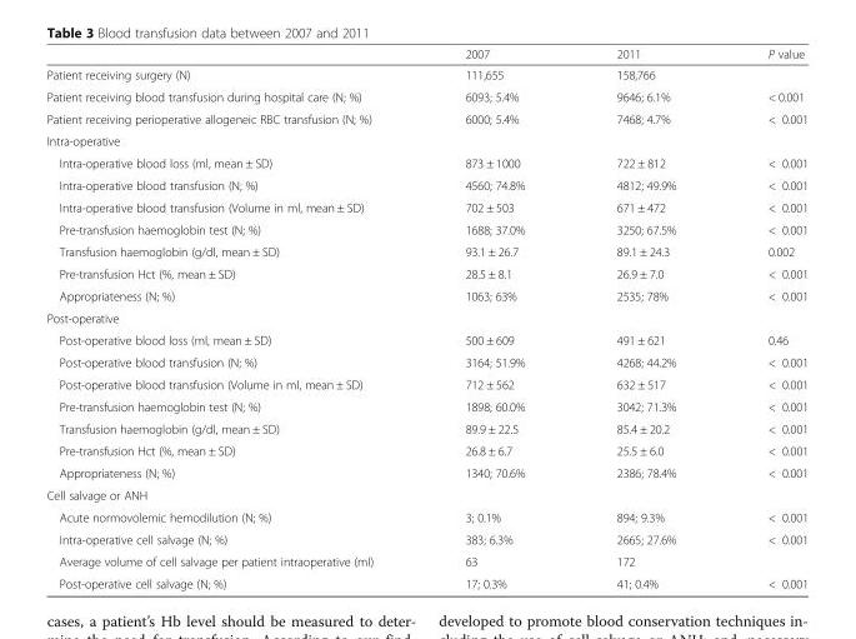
<table><thead><tr><td></td><td>2007</td><td>2011</td><td>P value</td></tr></thead><tbody><tr><td>Patient receiving surgery (N)</td><td>111,655</td><td>158,766</td><td></td></tr><tr><td>Patient receiving blood transfusion during hospital care (N; %)</td><td>6093; 5.4%</td><td>9646; 6.1%</td><td>&lt; 0.001</td></tr><tr><td>Patient receiving perioperative allogeneic RBC transfusion (N; %)</td><td>6000; 5.4%</td><td>7468; 4.7%</td><td>&lt; 0.001</td></tr><tr><td colspan="4">Intra-operative</td></tr><tr><td>Intra-operative blood loss (ml, mean ± SD)</td><td>873 ± 1000</td><td>722 ± 812</td><td>&lt; 0.001</td></tr><tr><td>Intra-operative blood transfusion (N; %)</td><td>4560; 74.8%</td><td>4812; 49.9%</td><td>&lt; 0.001</td></tr><tr><td>Intra-operative blood transfusion (Volume in ml, mean ± SD)</td><td>702 ± 503</td><td>671 ± 472</td><td>&lt; 0.001</td></tr><tr><td>Pre-transfusion haemoglobin test (N; %)</td><td>1688; 37.0%</td><td>3250; 67.5%</td><td>&lt; 0.001</td></tr><tr><td>Transfusion haemoglobin (g/dl, mean ± SD)</td><td>93.1 ± 26.7</td><td>89.1 ± 24.3</td><td>0.002</td></tr><tr><td>Pre-transfusion Hct (%, mean ± SD)</td><td>28.5 ± 8.1</td><td>26.9 ± 7.0</td><td>&lt; 0.001</td></tr><tr><td>Appropriateness (N; %)</td><td>1063; 63%</td><td>2535; 78%</td><td>&lt; 0.001</td></tr><tr><td colspan="4">Post-operative</td></tr><tr><td>Post-operative blood loss (ml, mean ± SD)</td><td>500 ± 609</td><td>491 ± 621</td><td>0.46</td></tr><tr><td>Post-operative blood transfusion (N; %)</td><td>3164; 51.9%</td><td>4268; 44.2%</td><td>&lt; 0.001</td></tr><tr><td>Post-operative blood transfusion (Volume in ml, mean ± SD)</td><td>712 ± 562</td><td>632 ± 517</td><td>&lt; 0.001</td></tr><tr><td>Pre-transfusion haemoglobin test (N; %)</td><td>1898; 60.0%</td><td>3042; 71.3%</td><td>&lt; 0.001</td></tr><tr><td>Transfusion haemoglobin (g/dl, mean ± SD)</td><td>89.9 ± 22.5</td><td>85.4 ± 20.2</td><td>&lt; 0.001</td></tr><tr><td>Pre-transfusion Hct (%, mean ± SD)</td><td>26.8 ± 6.7</td><td>25.5 ± 6.0</td><td>&lt; 0.001</td></tr><tr><td>Appropriateness (N; %)</td><td>1340; 70.6%</td><td>2386; 78.4%</td><td>&lt; 0.001</td></tr><tr><td colspan="4">Cell salvage or ANH</td></tr><tr><td>Acute normovolemic hemodilution (N; %)</td><td>3; 0.1%</td><td>894; 9.3%</td><td>&lt; 0.001</td></tr><tr><td>Intra-operative cell salvage (N; %)</td><td>383; 6.3%</td><td>2665; 27.6%</td><td>&lt; 0.001</td></tr><tr><td>Average volume of cell salvage per patient intraoperative (ml)</td><td>63</td><td>172</td><td></td></tr><tr><td>Post-operative cell salvage (N; %)</td><td>17; 0.3%</td><td>41; 0.4%</td><td>&lt; 0.001</td></tr></tbody></table>